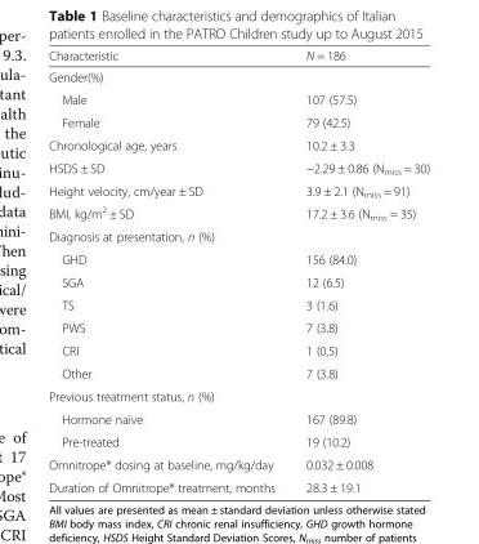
<table><thead><tr><td>Characteristic</td><td>N = 186</td></tr></thead><tbody><tr><td colspan="2">Gender(%)</td></tr><tr><td>Male</td><td>107 (57.5)</td></tr><tr><td>Female</td><td>79 (42.5)</td></tr><tr><td>Chronological age, years</td><td>10.2 ± 3.3</td></tr><tr><td>HSDS ± SD</td><td>−2.29 ± 0.86 (N<sub>miss</sub> = 30)</td></tr><tr><td>Height velocity, cm/year ± SD</td><td>3.9 ± 2.1 (N<sub>miss</sub> = 91)</td></tr><tr><td>BMI, kg/m<sup>2</sup> ± SD</td><td>17.2 ± 3.6 (N<sub>miss</sub> = 35)</td></tr><tr><td colspan="2">Diagnosis at presentation, n (%)</td></tr><tr><td>GHD</td><td>156 (84.0)</td></tr><tr><td>SGA</td><td>12 (6.5)</td></tr><tr><td>TS</td><td>3 (1.6)</td></tr><tr><td>PWS</td><td>7 (3.8)</td></tr><tr><td>CRI</td><td>1 (0.5)</td></tr><tr><td>Other</td><td>7 (3.8)</td></tr><tr><td colspan="2">Previous treatment status, n (%)</td></tr><tr><td>Hormone naïve</td><td>167 (89.8)</td></tr><tr><td>Pre-treated</td><td>19 (10.2)</td></tr><tr><td>Omnitrope® dosing at baseline, mg/kg/day</td><td>0.032 ± 0.008</td></tr><tr><td>Duration of Omnitrope® treatment, months</td><td>28.3 ± 19.1</td></tr></tbody></table>